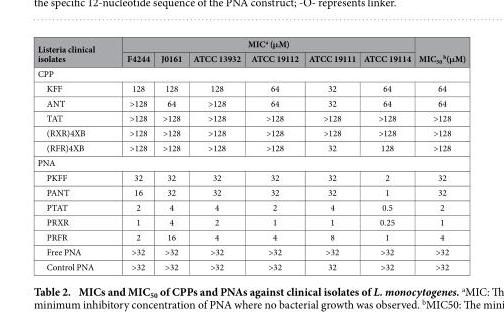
<table><thead><tr><td rowspan="2">Listeria clinical isolates</td><td colspan="6">MIC<sup>a</sup> (μM)</td><td rowspan="2">MIC<sub>50</sub> <sup>b</sup>(μM)</td></tr><tr><td>F4244</td><td>J0161</td><td>ATCC 13932</td><td>ATCC 19112</td><td>ATCC 19111</td><td>ATCC 19114</td></tr></thead><tbody><tr><td colspan="8">CPP</td></tr><tr><td>KFF</td><td>128</td><td>128</td><td>128</td><td>64</td><td>32</td><td>64</td><td>64</td></tr><tr><td>ANT</td><td>&gt;128</td><td>64</td><td>&gt;128</td><td>64</td><td>32</td><td>64</td><td>64</td></tr><tr><td>TAT</td><td>&gt;128</td><td>&gt;128</td><td>&gt;128</td><td>&gt;128</td><td>&gt;128</td><td>&gt;128</td><td>&gt;128</td></tr><tr><td>(RXR)4XB</td><td>&gt;128</td><td>&gt;128</td><td>&gt;128</td><td>&gt;128</td><td>&gt;128</td><td>&gt;128</td><td>&gt;128</td></tr><tr><td>(RFR)4XB</td><td>&gt;128</td><td>&gt;128</td><td>&gt;128</td><td>&gt;128</td><td>32</td><td>128</td><td>&gt;128</td></tr><tr><td colspan="8">PNA</td></tr><tr><td>PKFF</td><td>32</td><td>32</td><td>32</td><td>32</td><td>32</td><td>2</td><td>32</td></tr><tr><td>PANT</td><td>16</td><td>32</td><td>32</td><td>32</td><td>32</td><td>1</td><td>32</td></tr><tr><td>PTAT</td><td>2</td><td>4</td><td>4</td><td>2</td><td>4</td><td>0.5</td><td>2</td></tr><tr><td>PRXR</td><td>1</td><td>4</td><td>2</td><td>1</td><td>1</td><td>0.25</td><td>1</td></tr><tr><td>PRFR</td><td>2</td><td>16</td><td>4</td><td>4</td><td>8</td><td>1</td><td>4</td></tr><tr><td>Free PNA</td><td>&gt;32</td><td>&gt;32</td><td>&gt;32</td><td>&gt;32</td><td>&gt;32</td><td>&gt;32</td><td>&gt;32</td></tr><tr><td>Control PNA</td><td>&gt;32</td><td>&gt;32</td><td>&gt;32</td><td>&gt;32</td><td>32</td><td>&gt;32</td><td>&gt;32</td></tr></tbody></table>